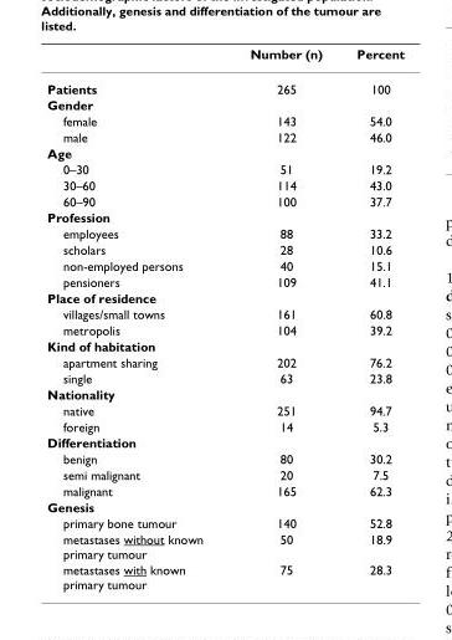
<table><thead><tr><td></td><td>Number (n)</td><td>Percent</td></tr></thead><tbody><tr><td>Patients</td><td>265</td><td>100</td></tr><tr><td colspan="3">Gender</td></tr><tr><td>female</td><td>143</td><td>54.0</td></tr><tr><td>male</td><td>122</td><td>46.0</td></tr><tr><td colspan="3">Age</td></tr><tr><td>0–30</td><td>51</td><td>19.2</td></tr><tr><td>30–60</td><td>114</td><td>43.0</td></tr><tr><td>60–90</td><td>100</td><td>37.7</td></tr><tr><td colspan="3">Profession</td></tr><tr><td>employees</td><td>88</td><td>33.2</td></tr><tr><td>scholars</td><td>28</td><td>10.6</td></tr><tr><td>non-employed persons</td><td>40</td><td>15.1</td></tr><tr><td>pensioners</td><td>109</td><td>41.1</td></tr><tr><td colspan="3">Place of residence</td></tr><tr><td>villages/small towns</td><td>161</td><td>60.8</td></tr><tr><td>metropolis</td><td>104</td><td>39.2</td></tr><tr><td colspan="3">Kind of habitation</td></tr><tr><td>apartment sharing</td><td>202</td><td>76.2</td></tr><tr><td>single</td><td>63</td><td>23.8</td></tr><tr><td colspan="3">Nationality</td></tr><tr><td>native</td><td>251</td><td>94.7</td></tr><tr><td>foreign</td><td>14</td><td>5.3</td></tr><tr><td colspan="3">Differentiation</td></tr><tr><td>benign</td><td>80</td><td>30.2</td></tr><tr><td>semi malignant</td><td>20</td><td>7.5</td></tr><tr><td>malignant</td><td>165</td><td>62.3</td></tr><tr><td colspan="3">Genesis</td></tr><tr><td>primary bone tumour</td><td>140</td><td>52.8</td></tr><tr><td>metastases without known primary tumour</td><td>50</td><td>18.9</td></tr><tr><td>metastases with known primary tumour</td><td>75</td><td>28.3</td></tr></tbody></table>